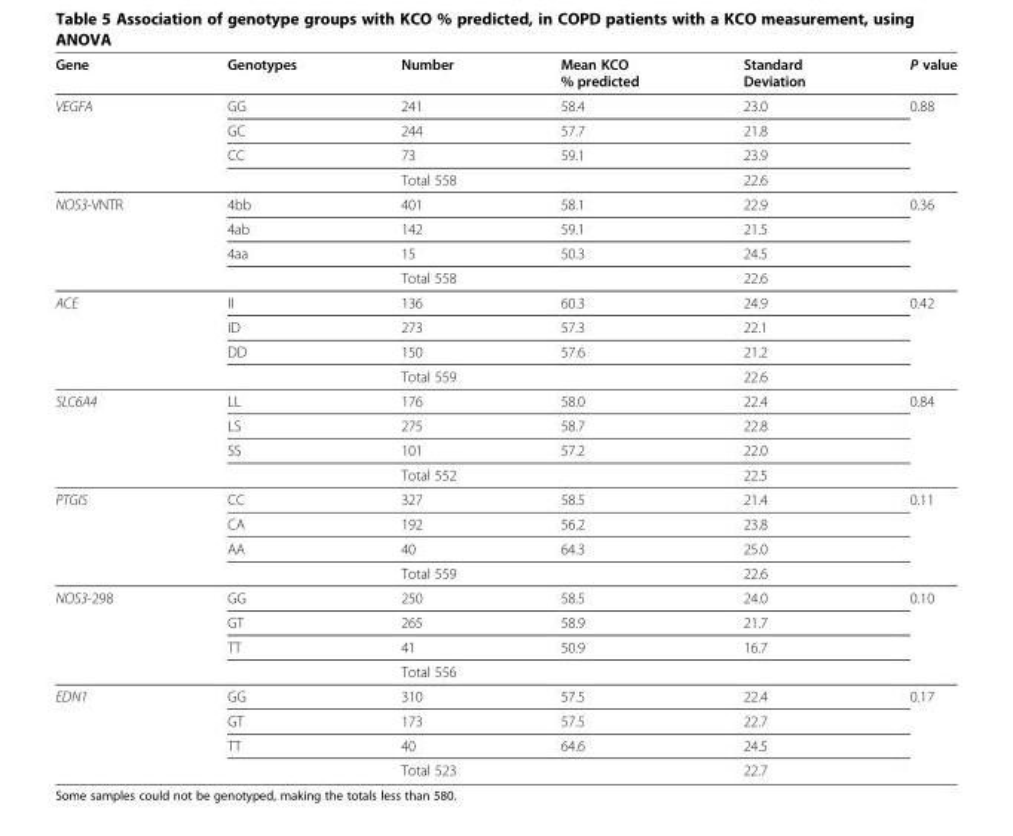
<table><thead><tr><td>Gene</td><td>Genotypes</td><td>Number</td><td>Mean KCO % predicted</td><td>Standard Deviation</td><td>P value</td></tr></thead><tbody><tr><td rowspan="4">VEGFA</td><td>GG</td><td>241</td><td>58.4</td><td>23.0</td><td>0.88</td></tr><tr><td>GC</td><td>244</td><td>57.7</td><td>21.8</td><td></td></tr><tr><td>CC</td><td>73</td><td>59.1</td><td>23.9</td><td></td></tr><tr><td></td><td>Total 558</td><td></td><td>22.6</td><td></td></tr><tr><td rowspan="4">NOS3-VNTR</td><td>4bb</td><td>401</td><td>58.1</td><td>22.9</td><td>0.36</td></tr><tr><td>4ab</td><td>142</td><td>59.1</td><td>21.5</td><td></td></tr><tr><td>4aa</td><td>15</td><td>50.3</td><td>24.5</td><td></td></tr><tr><td></td><td>Total 558</td><td></td><td>22.6</td><td></td></tr><tr><td rowspan="4">ACE</td><td>II</td><td>136</td><td>60.3</td><td>24.9</td><td>0.42</td></tr><tr><td>ID</td><td>273</td><td>57.3</td><td>22.1</td><td></td></tr><tr><td>DD</td><td>150</td><td>57.6</td><td>21.2</td><td></td></tr><tr><td></td><td>Total 559</td><td></td><td>22.6</td><td></td></tr><tr><td rowspan="4">SLC6A4</td><td>LL</td><td>176</td><td>58.0</td><td>22.4</td><td>0.84</td></tr><tr><td>LS</td><td>275</td><td>58.7</td><td>22.8</td><td></td></tr><tr><td>SS</td><td>101</td><td>57.2</td><td>22.0</td><td></td></tr><tr><td></td><td>Total 552</td><td></td><td>22.5</td><td></td></tr><tr><td rowspan="4">PTGIS</td><td>CC</td><td>327</td><td>58.5</td><td>21.4</td><td>0.11</td></tr><tr><td>CA</td><td>192</td><td>56.2</td><td>23.8</td><td></td></tr><tr><td>AA</td><td>40</td><td>64.3</td><td>25.0</td><td></td></tr><tr><td></td><td>Total 559</td><td></td><td>22.6</td><td></td></tr><tr><td rowspan="4">NOS3-298</td><td>GG</td><td>250</td><td>58.5</td><td>24.0</td><td>0.10</td></tr><tr><td>GT</td><td>265</td><td>58.9</td><td>21.7</td><td></td></tr><tr><td>TT</td><td>41</td><td>50.9</td><td>16.7</td><td></td></tr><tr><td></td><td>Total 556</td><td></td><td></td><td></td></tr><tr><td rowspan="4">EDN1</td><td>GG</td><td>310</td><td>57.5</td><td>22.4</td><td>0.17</td></tr><tr><td>GT</td><td>173</td><td>57.5</td><td>22.7</td><td></td></tr><tr><td>TT</td><td>40</td><td>64.6</td><td>24.5</td><td></td></tr><tr><td></td><td>Total 523</td><td></td><td>22.7</td><td></td></tr></tbody></table>